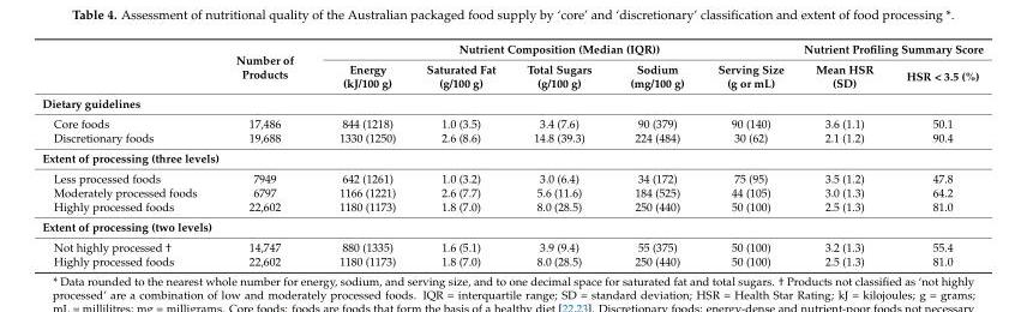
<table><thead><tr><td rowspan="2"></td><td rowspan="2">Number of Products</td><td colspan="5">Nutrient Composition (Median (IQR))</td><td colspan="2">Nutrient Profiling Summary Score</td></tr><tr><td>Energy (kJ/100 g)</td><td>Saturated Fat (g/100 g)</td><td>Total Sugars (g/100 g)</td><td>Sodium (mg/100 g)</td><td>Serving Size (g or mL)</td><td>Mean HSR (SD)</td><td>HSR &lt; 3.5 (%)</td></tr></thead><tbody><tr><td colspan="9">Dietary guidelines</td></tr><tr><td>Core foods</td><td>17,486</td><td>844 (1218)</td><td>1.0 (3.5)</td><td>3.4 (7.6)</td><td>90 (379)</td><td>90 (140)</td><td>3.6 (1.1)</td><td>50.1</td></tr><tr><td>Discretionary foods</td><td>19,688</td><td>1330 (1250)</td><td>2.6 (8.6)</td><td>14.8 (39.3)</td><td>224 (484)</td><td>30 (62)</td><td>2.1 (1.2)</td><td>90.4</td></tr><tr><td colspan="9">Extent of processing (three levels)</td></tr><tr><td>Less processed foods</td><td>7949</td><td>642 (1261)</td><td>1.0 (3.2)</td><td>3.0 (6.4)</td><td>34 (172)</td><td>75 (95)</td><td>3.5 (1.2)</td><td>47.8</td></tr><tr><td>Moderately processed foods</td><td>6797</td><td>1166 (1221)</td><td>2.6 (7.7)</td><td>5.6 (11.6)</td><td>184 (525)</td><td>44 (105)</td><td>3.0 (1.3)</td><td>64.2</td></tr><tr><td>Highly processed foods</td><td>22,602</td><td>1180 (1173)</td><td>1.8 (7.0)</td><td>8.0 (28.5)</td><td>250 (440)</td><td>50 (100)</td><td>2.5 (1.3)</td><td>81.0</td></tr><tr><td colspan="9">Extent of processing (two levels)</td></tr><tr><td>Not highly processed †</td><td>14,747</td><td>880 (1335)</td><td>1.6 (5.1)</td><td>3.9 (9.4)</td><td>55 (375)</td><td>50 (100)</td><td>3.2 (1.3)</td><td>55.4</td></tr><tr><td>Highly processed foods</td><td>22,602</td><td>1180 (1173)</td><td>1.8 (7.0)</td><td>8.0 (28.5)</td><td>250 (440)</td><td>50 (100)</td><td>2.5 (1.3)</td><td>81.0</td></tr></tbody></table>